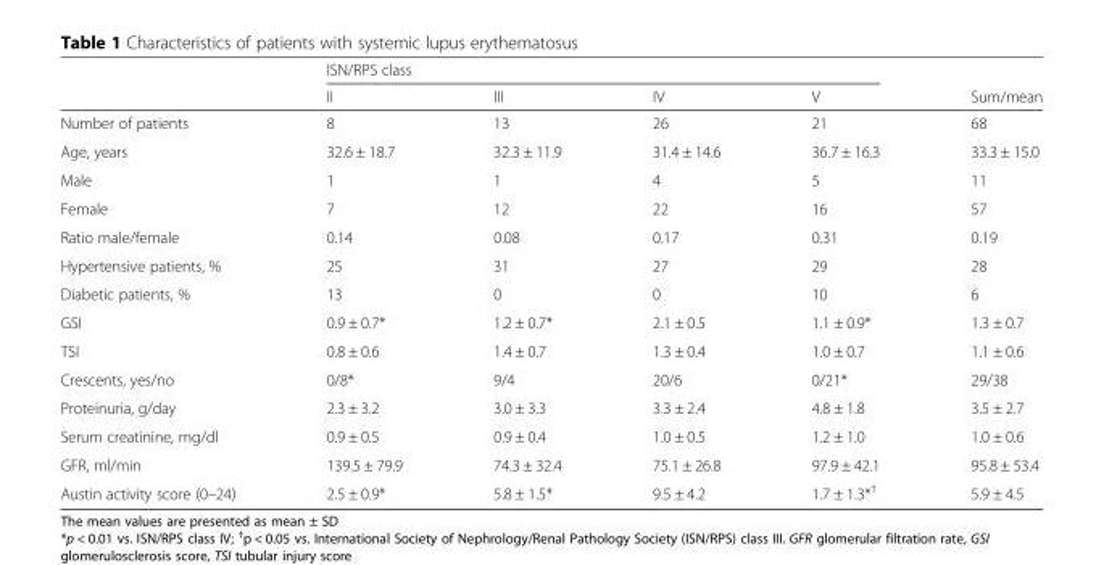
<table><thead><tr><td rowspan="2"></td><td colspan="4">ISN/RPS class</td><td rowspan="2">Sum/mean</td></tr><tr><td>II</td><td>III</td><td>IV</td><td>V</td></tr></thead><tbody><tr><td>Number of patients</td><td>8</td><td>13</td><td>26</td><td>21</td><td>68</td></tr><tr><td>Age, years</td><td>32.6 ± 18.7</td><td>32.3 ± 11.9</td><td>31.4 ± 14.6</td><td>36.7 ± 16.3</td><td>33.3 ± 15.0</td></tr><tr><td>Male</td><td>1</td><td>1</td><td>4</td><td>5</td><td>11</td></tr><tr><td>Female</td><td>7</td><td>12</td><td>22</td><td>16</td><td>57</td></tr><tr><td>Ratio male/female</td><td>0.14</td><td>0.08</td><td>0.17</td><td>0.31</td><td>0.19</td></tr><tr><td>Hypertensive patients, %</td><td>25</td><td>31</td><td>27</td><td>29</td><td>28</td></tr><tr><td>Diabetic patients, %</td><td>13</td><td>0</td><td>0</td><td>10</td><td>6</td></tr><tr><td>GSI</td><td>0.9 ± 0.7*</td><td>1.2 ± 0.7*</td><td>2.1 ± 0.5</td><td>1.1 ± 0.9*</td><td>1.3 ± 0.7</td></tr><tr><td>TSI</td><td>0.8 ± 0.6</td><td>1.4 ± 0.7</td><td>1.3 ± 0.4</td><td>1.0 ± 0.7</td><td>1.1 ± 0.6</td></tr><tr><td>Crescents, yes/no</td><td>0/8*</td><td>9/4</td><td>20/6</td><td>0/21*</td><td>29/38</td></tr><tr><td>Proteinuria, g/day</td><td>2.3 ± 3.2</td><td>3.0 ± 3.3</td><td>3.3 ± 2.4</td><td>4.8 ± 1.8</td><td>3.5 ± 2.7</td></tr><tr><td>Serum creatinine, mg/dl</td><td>0.9 ± 0.5</td><td>0.9 ± 0.4</td><td>1.0 ± 0.5</td><td>1.2 ± 1.0</td><td>1.0 ± 0.6</td></tr><tr><td>GFR, ml/min</td><td>139.5 ± 79.9</td><td>74.3 ± 32.4</td><td>75.1 ± 26.8</td><td>97.9 ± 42.1</td><td>95.8 ± 53.4</td></tr><tr><td>Austin activity score (0–24)</td><td>2.5 ± 0.9*</td><td>5.8 ± 1.5*</td><td>9.5 ± 4.2</td><td>1.7 ± 1.3*<sup>†</sup></td><td>5.9 ± 4.5</td></tr></tbody></table>